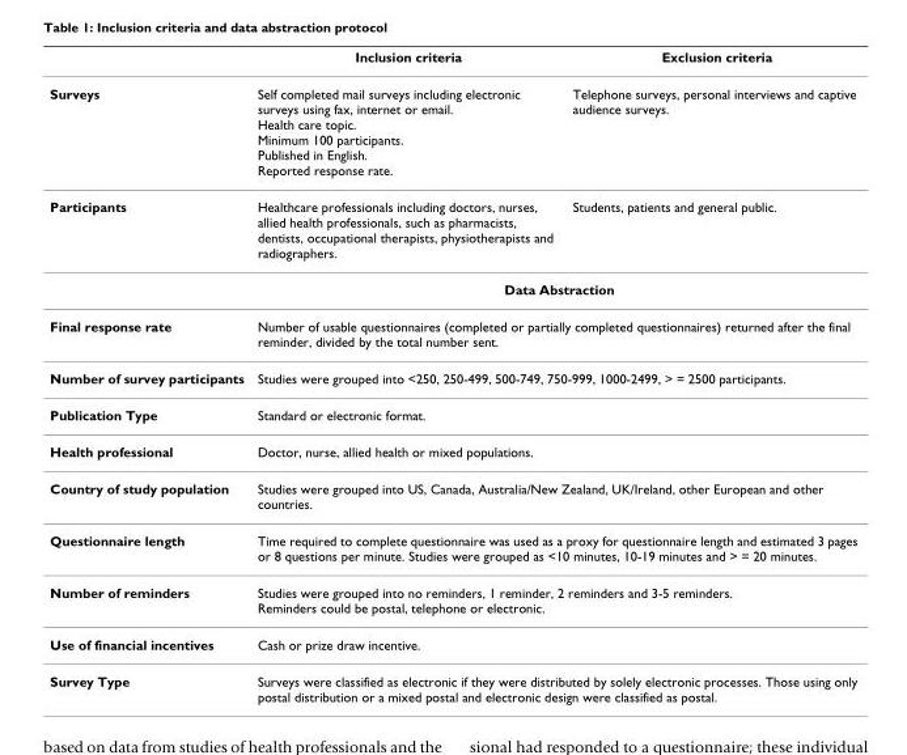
<table><thead><tr><td></td><td>Inclusion criteria</td><td>Exclusion criteria</td></tr></thead><tbody><tr><td>Surveys</td><td>Self completed mail surveys including electronic surveys using fax, internet or email. Health care topic. Minimum 100 participants. Published in English. Reported response rate.</td><td>Telephone surveys, personal interviews and captive audience surveys.</td></tr><tr><td rowspan="2">Participants</td><td>Healthcare professionals including doctors, nurses, allied health professionals, such as pharmacists, dentists, occupational therapists, physiotherapists and radiographers.</td><td>Students, patients and general public.</td></tr><tr><td colspan="2">Data Abstraction</td></tr><tr><td>Final response rate</td><td colspan="2">Number of usable questionnaires (completed or partially completed questionnaires) returned after the final reminder, divided by the total number sent.</td></tr><tr><td>Number of survey participants</td><td colspan="2">Studies were grouped into &lt;250, 250-499, 500-749, 750-999, 1000-2499, &gt; = 2500 participants.</td></tr><tr><td>Publication Type</td><td colspan="2">Standard or electronic format.</td></tr><tr><td>Health professional</td><td colspan="2">Doctor, nurse, allied health or mixed populations.</td></tr><tr><td>Country of study population</td><td colspan="2">Studies were grouped into US, Canada, Australia/New Zealand, UK/Ireland, other European and other countries.</td></tr><tr><td>Questionnaire length</td><td colspan="2">Time required to complete questionnaire was used as a proxy for questionnaire length and estimated 3 pages or 8 questions per minute. Studies were grouped as &lt;10 minutes, 10-19 minutes and &gt; = 20 minutes.</td></tr><tr><td>Number of reminders</td><td colspan="2">Studies were grouped into no reminders, 1 reminder, 2 reminders and 3-5 reminders. Reminders could be postal, telephone or electronic.</td></tr><tr><td>Use of financial incentives</td><td colspan="2">Cash or prize draw incentive.</td></tr><tr><td>Survey Type</td><td colspan="2">Surveys were classified as electronic if they were distributed by solely electronic processes. Those using only postal distribution or a mixed postal and electronic design were classified as postal.</td></tr></tbody></table>